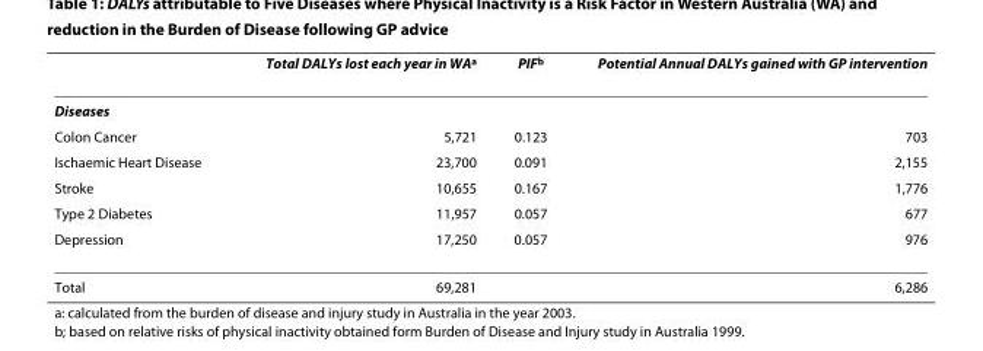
<table><thead><tr><td></td><td>Total DALYs lost each year in WA<sup>a</sup></td><td>PIF<sup>b</sup></td><td>Potential Annual DALYs gained with GP intervention</td></tr></thead><tbody><tr><td colspan="4">Diseases</td></tr><tr><td>Colon Cancer</td><td>5,721</td><td>0.123</td><td>703</td></tr><tr><td>Ischaemic Heart Disease</td><td>23,700</td><td>0.091</td><td>2,155</td></tr><tr><td>Stroke</td><td>10,655</td><td>0.167</td><td>1,776</td></tr><tr><td>Type 2 Diabetes</td><td>11,957</td><td>0.057</td><td>677</td></tr><tr><td>Depression</td><td>17,250</td><td>0.057</td><td>976</td></tr><tr><td>Total</td><td>69,281</td><td></td><td>6,286</td></tr></tbody></table>